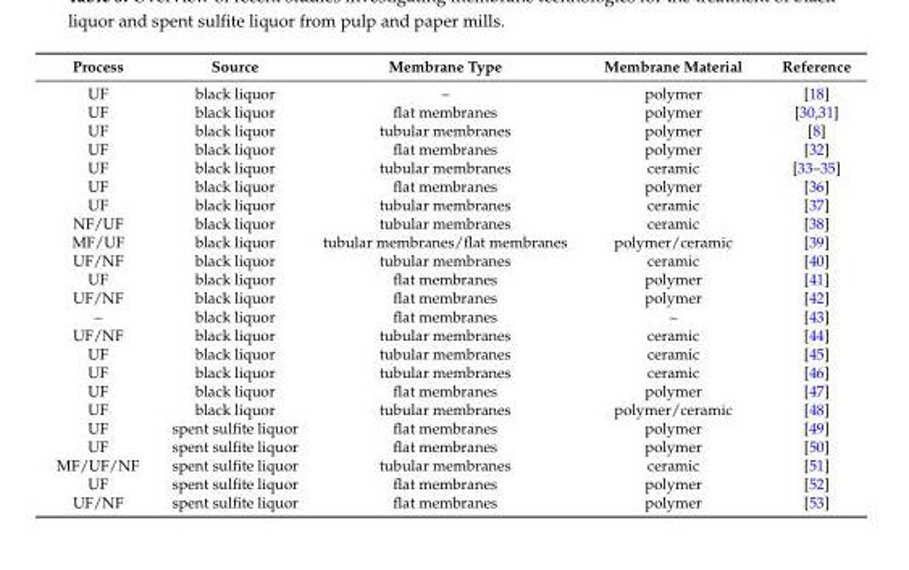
<table><thead><tr><td>Process</td><td>Source</td><td>Membrane Type</td><td>Membrane Material</td><td>Reference</td></tr></thead><tbody><tr><td>UF</td><td>black liquor</td><td>–</td><td>polymer</td><td>[18]</td></tr><tr><td>UF</td><td>black liquor</td><td>flat membranes</td><td>polymer</td><td>[30,31]</td></tr><tr><td>UF</td><td>black liquor</td><td>tubular membranes</td><td>polymer</td><td>[8]</td></tr><tr><td>UF</td><td>black liquor</td><td>flat membranes</td><td>polymer</td><td>[32]</td></tr><tr><td>UF</td><td>black liquor</td><td>tubular membranes</td><td>ceramic</td><td>[33–35]</td></tr><tr><td>UF</td><td>black liquor</td><td>flat membranes</td><td>polymer</td><td>[36]</td></tr><tr><td>UF</td><td>black liquor</td><td>tubular membranes</td><td>ceramic</td><td>[37]</td></tr><tr><td>NF/UF</td><td>black liquor</td><td>tubular membranes</td><td>ceramic</td><td>[38]</td></tr><tr><td>MF/UF</td><td>black liquor</td><td>tubular membranes/flat membranes</td><td>polymer/ceramic</td><td>[39]</td></tr><tr><td>UF/NF</td><td>black liquor</td><td>tubular membranes</td><td>ceramic</td><td>[40]</td></tr><tr><td>UF</td><td>black liquor</td><td>flat membranes</td><td>polymer</td><td>[41]</td></tr><tr><td>UF/NF</td><td>black liquor</td><td>flat membranes</td><td>polymer</td><td>[42]</td></tr><tr><td>–</td><td>black liquor</td><td>flat membranes</td><td>–</td><td>[43]</td></tr><tr><td>UF/NF</td><td>black liquor</td><td>tubular membranes</td><td>ceramic</td><td>[44]</td></tr><tr><td>UF</td><td>black liquor</td><td>tubular membranes</td><td>ceramic</td><td>[45]</td></tr><tr><td>UF</td><td>black liquor</td><td>tubular membranes</td><td>ceramic</td><td>[46]</td></tr><tr><td>UF</td><td>black liquor</td><td>flat membranes</td><td>polymer</td><td>[47]</td></tr><tr><td>UF</td><td>black liquor</td><td>tubular membranes</td><td>polymer/ceramic</td><td>[48]</td></tr><tr><td>UF</td><td>spent sulfite liquor</td><td>flat membranes</td><td>polymer</td><td>[49]</td></tr><tr><td>UF</td><td>spent sulfite liquor</td><td>flat membranes</td><td>polymer</td><td>[50]</td></tr><tr><td>MF/UF/NF</td><td>spent sulfite liquor</td><td>tubular membranes</td><td>ceramic</td><td>[51]</td></tr><tr><td>UF</td><td>spent sulfite liquor</td><td>flat membranes</td><td>polymer</td><td>[52]</td></tr><tr><td>UF/NF</td><td>spent sulfite liquor</td><td>flat membranes</td><td>polymer</td><td>[53]</td></tr></tbody></table>